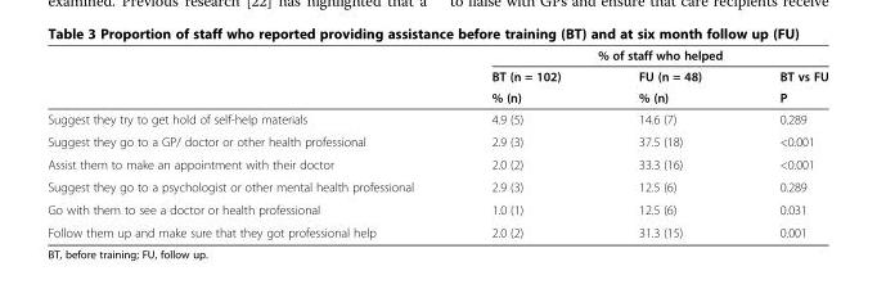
<table><thead><tr><td rowspan="3"></td><td colspan="3">% of staff who helped</td></tr><tr><td rowspan="2">BT (n = 102) % (n)</td><td rowspan="2">FU (n = 48) % (n)</td><td rowspan="2">BT vs FU P</td></tr><tr></tr></thead><tbody><tr><td>Suggest they try to get hold of self-help materials</td><td>4.9 (5)</td><td>14.6 (7)</td><td>0.289</td></tr><tr><td>Suggest they go to a GP/ doctor or other health professional</td><td>2.9 (3)</td><td>37.5 (18)</td><td>&lt;0.001</td></tr><tr><td>Assist them to make an appointment with their doctor</td><td>2.0 (2)</td><td>33.3 (16)</td><td>&lt;0.001</td></tr><tr><td>Suggest they go to a psychologist or other mental health professional</td><td>2.9 (3)</td><td>12.5 (6)</td><td>0.289</td></tr><tr><td>Go with them to see a doctor or health professional</td><td>1.0 (1)</td><td>12.5 (6)</td><td>0.031</td></tr><tr><td>Follow them up and make sure that they got professional help</td><td>2.0 (2)</td><td>31.3 (15)</td><td>0.001</td></tr></tbody></table>